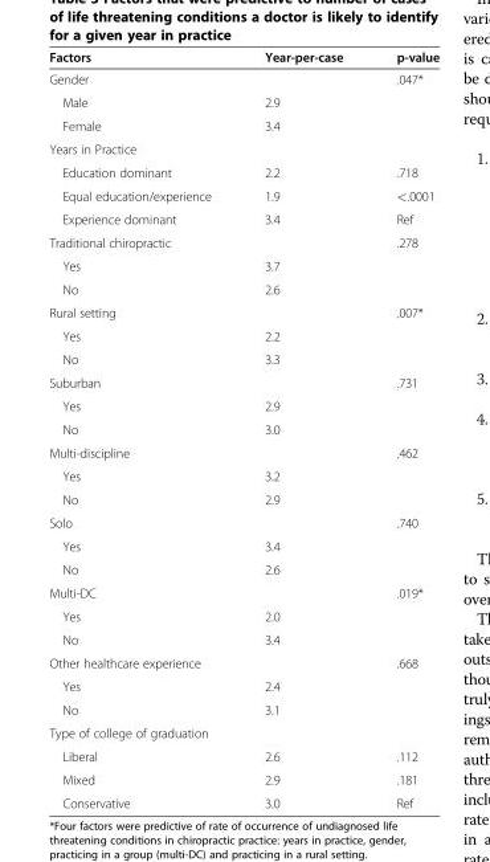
<table><thead><tr><td>Factors</td><td>Year-per-case</td><td>p-value</td></tr></thead><tbody><tr><td>Gender</td><td></td><td>.047*</td></tr><tr><td>Male</td><td>2.9</td><td></td></tr><tr><td>Female</td><td>3.4</td><td></td></tr><tr><td colspan="3">Years in Practice</td></tr><tr><td>Education dominant</td><td>2.2</td><td>.718</td></tr><tr><td>Equal education/experience</td><td>1.9</td><td>&lt;.0001</td></tr><tr><td>Experience dominant</td><td>3.4</td><td>Ref</td></tr><tr><td>Traditional chiropractic</td><td></td><td>.278</td></tr><tr><td>Yes</td><td>3.7</td><td></td></tr><tr><td>No</td><td>2.6</td><td></td></tr><tr><td>Rural setting</td><td></td><td>.007*</td></tr><tr><td>Yes</td><td>2.2</td><td></td></tr><tr><td>No</td><td>3.3</td><td></td></tr><tr><td>Suburban</td><td></td><td>.731</td></tr><tr><td>Yes</td><td>2.9</td><td></td></tr><tr><td>No</td><td>3.0</td><td></td></tr><tr><td>Multi-discipline</td><td></td><td>.462</td></tr><tr><td>Yes</td><td>3.2</td><td></td></tr><tr><td>No</td><td>2.9</td><td></td></tr><tr><td>Solo</td><td></td><td>.740</td></tr><tr><td>Yes</td><td>3.4</td><td></td></tr><tr><td>No</td><td>2.6</td><td></td></tr><tr><td>Multi-DC</td><td></td><td>.019*</td></tr><tr><td>Yes</td><td>2.0</td><td></td></tr><tr><td>No</td><td>3.4</td><td></td></tr><tr><td>Other healthcare experience</td><td></td><td>.668</td></tr><tr><td>Yes</td><td>2.4</td><td></td></tr><tr><td>No</td><td>3.1</td><td></td></tr><tr><td colspan="3">Type of college of graduation</td></tr><tr><td>Liberal</td><td>2.6</td><td>.112</td></tr><tr><td>Mixed</td><td>2.9</td><td>.181</td></tr><tr><td>Conservative</td><td>3.0</td><td>Ref</td></tr></tbody></table>